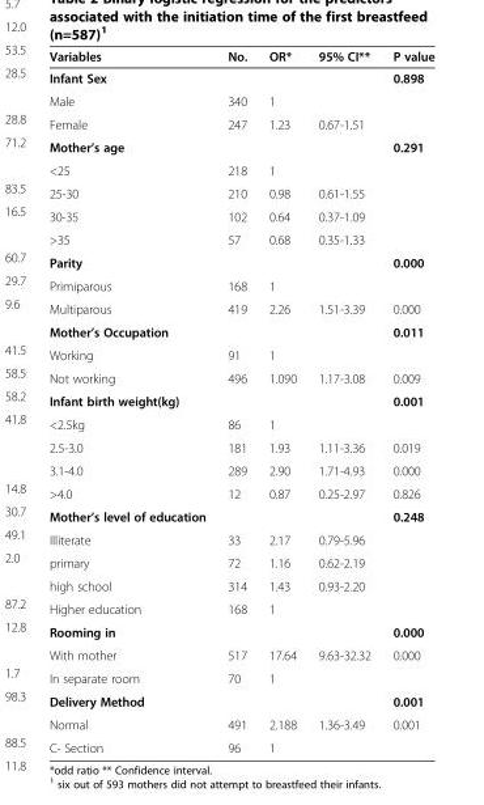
<table><thead><tr><td>Variables</td><td>No.</td><td>OR*</td><td>95% CI**</td><td>P value</td></tr></thead><tbody><tr><td>Infant Sex</td><td></td><td></td><td></td><td>0.898</td></tr><tr><td>Male</td><td>340</td><td>1</td><td></td><td></td></tr><tr><td>Female</td><td>247</td><td>1.23</td><td>0.67-1.51</td><td></td></tr><tr><td>Mother’s age</td><td></td><td></td><td></td><td>0.291</td></tr><tr><td>&lt;25</td><td>218</td><td>1</td><td></td><td></td></tr><tr><td>25-30</td><td>210</td><td>0.98</td><td>0.61-1.55</td><td></td></tr><tr><td>30-35</td><td>102</td><td>0.64</td><td>0.37-1.09</td><td></td></tr><tr><td>&gt;35</td><td>57</td><td>0.68</td><td>0.35-1.33</td><td></td></tr><tr><td>Parity</td><td></td><td></td><td></td><td>0.000</td></tr><tr><td>Primiparous</td><td>168</td><td>1</td><td></td><td></td></tr><tr><td>Multiparous</td><td>419</td><td>2.26</td><td>1.51-3.39</td><td>0.000</td></tr><tr><td>Mother’s Occupation</td><td></td><td></td><td></td><td>0.011</td></tr><tr><td>Working</td><td>91</td><td>1</td><td></td><td></td></tr><tr><td>Not working</td><td>496</td><td>1.090</td><td>1.17-3.08</td><td>0.009</td></tr><tr><td>Infant birth weight(kg)</td><td></td><td></td><td></td><td>0.001</td></tr><tr><td>&lt;2.5kg</td><td>86</td><td>1</td><td></td><td></td></tr><tr><td>2.5-3.0</td><td>181</td><td>1.93</td><td>1.11-3.36</td><td>0.019</td></tr><tr><td>3.1-4.0</td><td>289</td><td>2.90</td><td>1.71-4.93</td><td>0.000</td></tr><tr><td>&gt;4.0</td><td>12</td><td>0.87</td><td>0.25-2.97</td><td>0.826</td></tr><tr><td>Mother’s level of education</td><td></td><td></td><td></td><td>0.248</td></tr><tr><td>Illiterate</td><td>33</td><td>2.17</td><td>0.79-5.96</td><td></td></tr><tr><td>primary</td><td>72</td><td>1.16</td><td>0.62-2.19</td><td></td></tr><tr><td>high school</td><td>314</td><td>1.43</td><td>0.93-2.20</td><td></td></tr><tr><td>Higher education</td><td>168</td><td>1</td><td></td><td></td></tr><tr><td>Rooming in</td><td></td><td></td><td></td><td>0.000</td></tr><tr><td>With mother</td><td>517</td><td>17.64</td><td>9.63-32.32</td><td>0.000</td></tr><tr><td>In separate room</td><td>70</td><td>1</td><td></td><td></td></tr><tr><td>Delivery Method</td><td></td><td></td><td></td><td>0.001</td></tr><tr><td>Normal</td><td>491</td><td>2.188</td><td>1.36-3.49</td><td>0.001</td></tr><tr><td>C- Section</td><td>96</td><td>1</td><td></td><td></td></tr></tbody></table>